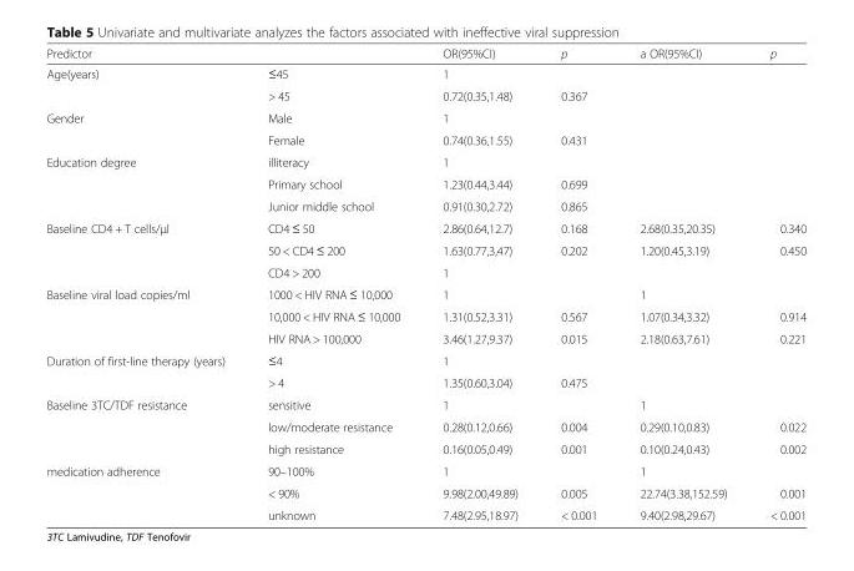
<table><thead><tr><td>Predictor</td><td></td><td>OR(95%CI)</td><td>p</td><td>a OR(95%CI)</td><td>p</td></tr></thead><tbody><tr><td rowspan="2">Age(years)</td><td>≤45</td><td>1</td><td></td><td></td><td></td></tr><tr><td>&gt; 45</td><td>0.72(0.35,1.48)</td><td>0.367</td><td></td><td></td></tr><tr><td rowspan="2">Gender</td><td>Male</td><td>1</td><td></td><td></td><td></td></tr><tr><td>Female</td><td>0.74(0.36,1.55)</td><td>0.431</td><td></td><td></td></tr><tr><td rowspan="3">Education degree</td><td>illiteracy</td><td>1</td><td></td><td></td><td></td></tr><tr><td>Primary school</td><td>1.23(0.44,3.44)</td><td>0.699</td><td></td><td></td></tr><tr><td>Junior middle school</td><td>0.91(0.30,2.72)</td><td>0.865</td><td></td><td></td></tr><tr><td rowspan="3">Baseline CD4 + T cells/μl</td><td>CD4 ≤ 50</td><td>2.86(0.64,12.7)</td><td>0.168</td><td>2.68(0.35,20.35)</td><td>0.340</td></tr><tr><td>50 &lt; CD4 ≤ 200</td><td>1.63(0.77,3,47)</td><td>0.202</td><td>1.20(0.45,3.19)</td><td>0.450</td></tr><tr><td>CD4 &gt; 200</td><td>1</td><td></td><td></td><td></td></tr><tr><td rowspan="3">Baseline viral load copies/ml</td><td>1000 &lt; HIV RNA ≤ 10,000</td><td>1</td><td></td><td>1</td><td></td></tr><tr><td>10,000 &lt; HIV RNA ≤ 10,000</td><td>1.31(0.52,3.31)</td><td>0.567</td><td>1.07(0.34,3.32)</td><td>0.914</td></tr><tr><td>HIV RNA &gt; 100,000</td><td>3.46(1.27,9.37)</td><td>0.015</td><td>2.18(0.63,7.61)</td><td>0.221</td></tr><tr><td rowspan="2">Duration of first-line therapy (years)</td><td>≤4</td><td>1</td><td></td><td></td><td></td></tr><tr><td>&gt; 4</td><td>1.35(0.60,3.04)</td><td>0.475</td><td></td><td></td></tr><tr><td rowspan="3">Baseline 3TC/TDF resistance</td><td>sensitive</td><td>1</td><td></td><td>1</td><td></td></tr><tr><td>low/moderate resistance</td><td>0.28(0.12,0.66)</td><td>0.004</td><td>0.29(0.10,0.83)</td><td>0.022</td></tr><tr><td>high resistance</td><td>0.16(0.05,0.49)</td><td>0.001</td><td>0.10(0.24,0.43)</td><td>0.002</td></tr><tr><td rowspan="3">medication adherence</td><td>90–100%</td><td>1</td><td></td><td>1</td><td></td></tr><tr><td>&lt; 90%</td><td>9.98(2.00,49.89)</td><td>0.005</td><td>22.74(3.38,152.59)</td><td>0.001</td></tr><tr><td>unknown</td><td>7.48(2.95,18.97)</td><td>&lt; 0.001</td><td>9.40(2.98,29.67)</td><td>&lt; 0.001</td></tr></tbody></table>